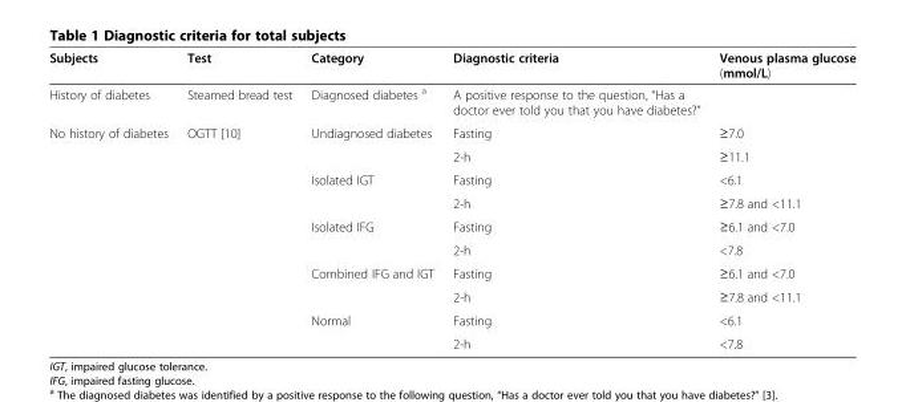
<table><thead><tr><td>Subjects</td><td>Test</td><td>Category</td><td>Diagnostic criteria</td><td>Venous plasma glucose (mmol/L)</td></tr></thead><tbody><tr><td>History of diabetes</td><td>Steamed bread test</td><td>Diagnosed diabetes <sup>a</sup></td><td>A positive response to the question, “Has a doctor ever told you that you have diabetes?”</td><td></td></tr><tr><td rowspan="10">No history of diabetes</td><td>OGTT [10]</td><td>Undiagnosed diabetes</td><td>Fasting</td><td>≥7.0</td></tr><tr><td></td><td></td><td>2-h</td><td>≥11.1</td></tr><tr><td></td><td>Isolated IGT</td><td>Fasting</td><td>&lt;6.1</td></tr><tr><td></td><td></td><td>2-h</td><td>≥7.8 and &lt;11.1</td></tr><tr><td></td><td>Isolated IFG</td><td>Fasting</td><td>≥6.1 and &lt;7.0</td></tr><tr><td></td><td></td><td>2-h</td><td>&lt;7.8</td></tr><tr><td></td><td>Combined IFG and IGT</td><td>Fasting</td><td>≥6.1 and &lt;7.0</td></tr><tr><td></td><td></td><td>2-h</td><td>≥7.8 and &lt;11.1</td></tr><tr><td></td><td>Normal</td><td>Fasting</td><td>&lt;6.1</td></tr><tr><td></td><td></td><td>2-h</td><td>&lt;7.8</td></tr></tbody></table>